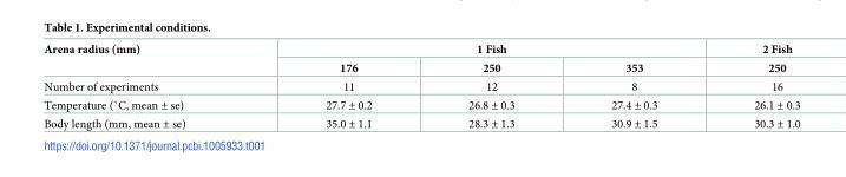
<table><thead><tr><td rowspan="2">Arena radius (mm)</td><td colspan="3">1 Fish</td><td rowspan="2">2 Fish 250</td></tr><tr><td>176</td><td>250</td><td>353</td></tr></thead><tbody><tr><td>Number of experiments</td><td>11</td><td>12</td><td>8</td><td>16</td></tr><tr><td>Temperature (˚C, mean ± se)</td><td>27.7 ± 0.2</td><td>26.8 ± 0.3</td><td>27.4 ± 0.3</td><td>26.1 ± 0.3</td></tr><tr><td>Body length (mm, mean ± se)</td><td>35.0 ± 1.1</td><td>28.3 ± 1.3</td><td>30.9 ± 1.5</td><td>30.3 ± 1.0</td></tr></tbody></table>